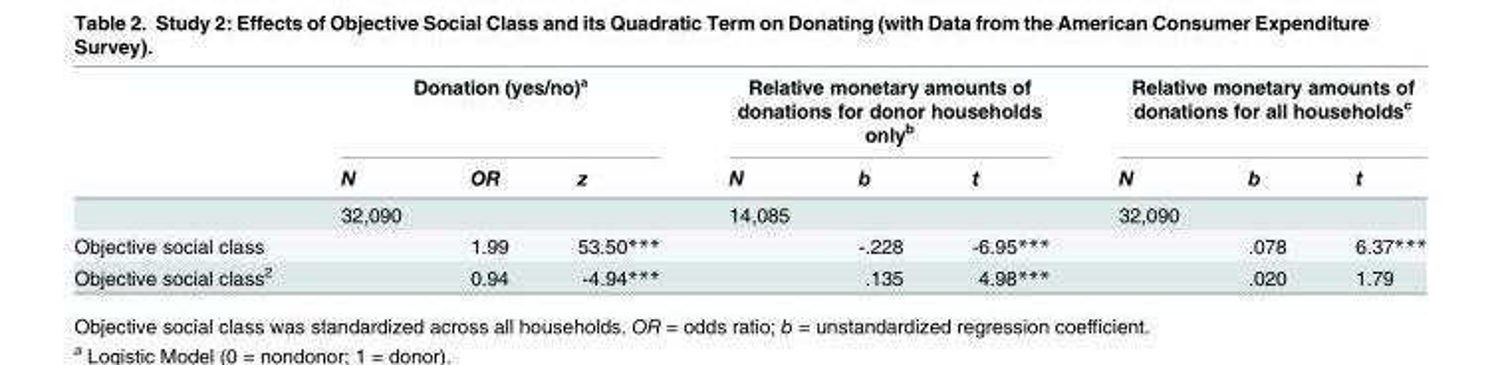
<table><thead><tr><td rowspan="2"></td><td colspan="3">Donation (yes/no)ª</td><td colspan="3">Relative monetary amounts of donations for donor households only<sup>b</sup></td><td colspan="3">Relative monetary amounts of donations for all households<sup>c</sup></td></tr><tr><td>N</td><td>OR</td><td>z</td><td>N</td><td>b</td><td>t</td><td>N</td><td>b</td><td>t</td></tr></thead><tbody><tr><td></td><td>32,090</td><td></td><td></td><td>14,085</td><td></td><td></td><td>32,090</td><td></td><td></td></tr><tr><td>Objective social class</td><td></td><td>1.99</td><td>53.50***</td><td></td><td>-.228</td><td>-6.95***</td><td></td><td>.078</td><td>6.37***</td></tr><tr><td>Objective social class<sup>2</sup></td><td></td><td>0.94</td><td>-4.94***</td><td></td><td>.135</td><td>4.98***</td><td></td><td>.020</td><td>1.79</td></tr></tbody></table>